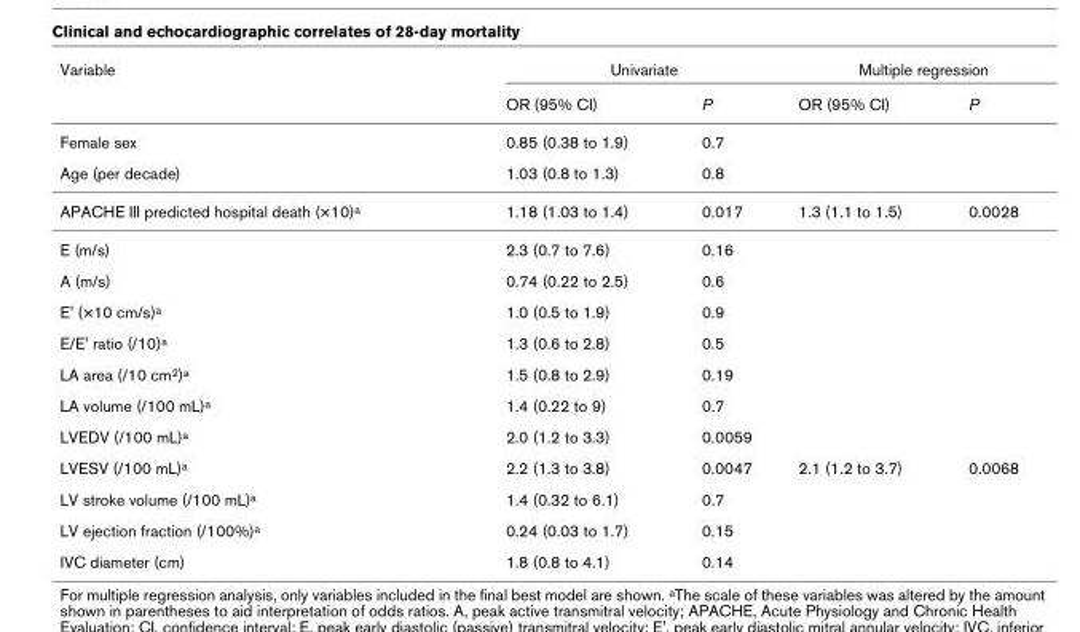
<table><thead><tr><td rowspan="2">Variable</td><td colspan="2">Univariate</td><td colspan="2">Multiple regression</td></tr><tr><td>OR (95% CI)</td><td>P</td><td>OR (95% CI)</td><td>P</td></tr></thead><tbody><tr><td>Female sex</td><td>0.85 (0.38 to 1.9)</td><td>0.7</td><td></td><td></td></tr><tr><td>Age (per decade)</td><td>1.03 (0.8 to 1.3)</td><td>0.8</td><td></td><td></td></tr><tr><td>APACHE III predicted hospital death (×10)<sup>a</sup></td><td>1.18 (1.03 to 1.4)</td><td>0.017</td><td>1.3 (1.1 to 1.5)</td><td>0.0028</td></tr><tr><td>E (m/s)</td><td>2.3 (0.7 to 7.6)</td><td>0.16</td><td></td><td></td></tr><tr><td>A (m/s)</td><td>0.74 (0.22 to 2.5)</td><td>0.6</td><td></td><td></td></tr><tr><td>E&#x27; (×10 cm/s)<sup>a</sup></td><td>1.0 (0.5 to 1.9)</td><td>0.9</td><td></td><td></td></tr><tr><td>E/E&#x27; ratio (/10)<sup>a</sup></td><td>1.3 (0.6 to 2.8)</td><td>0.5</td><td></td><td></td></tr><tr><td>LA area (/10 cm<sup>2</sup>)<sup>a</sup></td><td>1.5 (0.8 to 2.9)</td><td>0.19</td><td></td><td></td></tr><tr><td>LA volume (/100 mL)<sup>a</sup></td><td>1.4 (0.22 to 9)</td><td>0.7</td><td></td><td></td></tr><tr><td>LVEDV (/100 mL)<sup>a</sup></td><td>2.0 (1.2 to 3.3)</td><td>0.0059</td><td></td><td></td></tr><tr><td>LVESV (/100 mL)<sup>a</sup></td><td>2.2 (1.3 to 3.8)</td><td>0.0047</td><td>2.1 (1.2 to 3.7)</td><td>0.0068</td></tr><tr><td>LV stroke volume (/100 mL)<sup>a</sup></td><td>1.4 (0.32 to 6.1)</td><td>0.7</td><td></td><td></td></tr><tr><td>LV ejection fraction (/100%)<sup>a</sup></td><td>0.24 (0.03 to 1.7)</td><td>0.15</td><td></td><td></td></tr><tr><td>IVC diameter (cm)</td><td>1.8 (0.8 to 4.1)</td><td>0.14</td><td></td><td></td></tr></tbody></table>